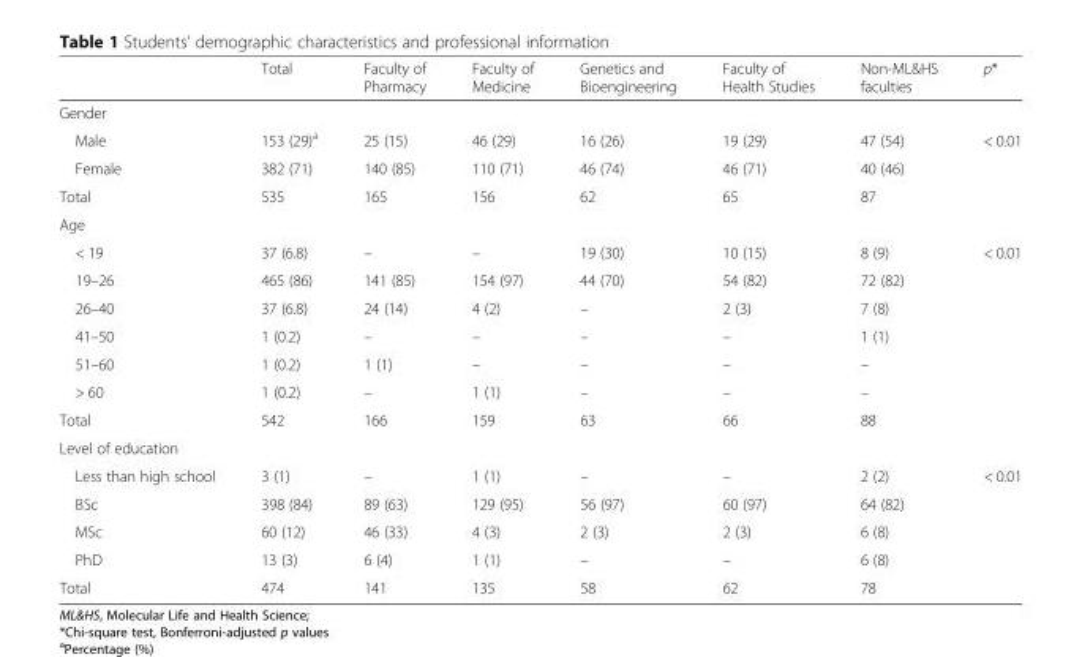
<table><thead><tr><td></td><td>Total</td><td>Faculty of Pharmacy</td><td>Faculty of Medicine</td><td>Genetics and Bioengineering</td><td>Faculty of Health Studies</td><td>Non-ML&amp;HS faculties</td><td>p*</td></tr></thead><tbody><tr><td colspan="8">Gender</td></tr><tr><td>Male</td><td>153 (29)<sup>a</sup></td><td>25 (15)</td><td>46 (29)</td><td>16 (26)</td><td>19 (29)</td><td>47 (54)</td><td rowspan="3">&lt; 0.01</td></tr><tr><td>Female</td><td>382 (71)</td><td>140 (85)</td><td>110 (71)</td><td>46 (74)</td><td>46 (71)</td><td>40 (46)</td></tr><tr><td>Total</td><td>535</td><td>165</td><td>156</td><td>62</td><td>65</td><td>87</td></tr><tr><td colspan="8">Age</td></tr><tr><td>&lt; 19</td><td>37 (6.8)</td><td>–</td><td>–</td><td>19 (30)</td><td>10 (15)</td><td>8 (9)</td><td rowspan="7">&lt; 0.01</td></tr><tr><td>19–26</td><td>465 (86)</td><td>141 (85)</td><td>154 (97)</td><td>44 (70)</td><td>54 (82)</td><td>72 (82)</td></tr><tr><td>26–40</td><td>37 (6.8)</td><td>24 (14)</td><td>4 (2)</td><td>–</td><td>2 (3)</td><td>7 (8)</td></tr><tr><td>41–50</td><td>1 (0.2)</td><td>–</td><td>–</td><td>–</td><td>–</td><td>1 (1)</td></tr><tr><td>51–60</td><td>1 (0.2)</td><td>1 (1)</td><td>–</td><td>–</td><td>–</td><td>–</td></tr><tr><td>&gt; 60</td><td>1 (0.2)</td><td>–</td><td>1 (1)</td><td>–</td><td>–</td><td>–</td></tr><tr><td>Total</td><td>542</td><td>166</td><td>159</td><td>63</td><td>66</td><td>88</td></tr><tr><td colspan="8">Level of education</td></tr><tr><td>Less than high school</td><td>3 (1)</td><td>–</td><td>1 (1)</td><td>–</td><td>–</td><td>2 (2)</td><td rowspan="5">&lt; 0.01</td></tr><tr><td>BSc</td><td>398 (84)</td><td>89 (63)</td><td>129 (95)</td><td>56 (97)</td><td>60 (97)</td><td>64 (82)</td></tr><tr><td>MSc</td><td>60 (12)</td><td>46 (33)</td><td>4 (3)</td><td>2 (3)</td><td>2 (3)</td><td>6 (8)</td></tr><tr><td>PhD</td><td>13 (3)</td><td>6 (4)</td><td>1 (1)</td><td>–</td><td>–</td><td>6 (8)</td></tr><tr><td>Total</td><td>474</td><td>141</td><td>135</td><td>58</td><td>62</td><td>78</td></tr></tbody></table>